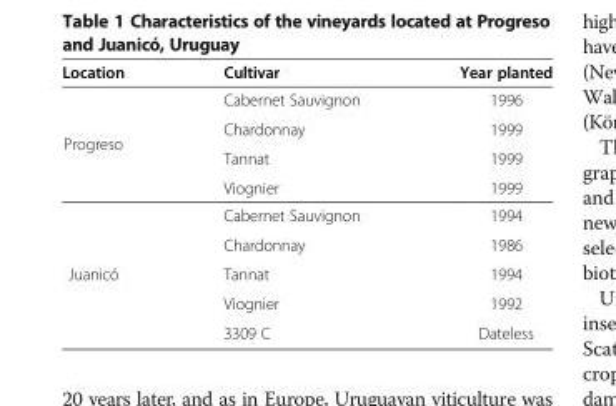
<table><thead><tr><td>Location</td><td>Cultivar</td><td>Year planted</td></tr></thead><tbody><tr><td rowspan="4">Progreso</td><td>Cabernet Sauvignon</td><td>1996</td></tr><tr><td>Chardonnay</td><td>1999</td></tr><tr><td>Tannat</td><td>1999</td></tr><tr><td>Viognier</td><td>1999</td></tr><tr><td rowspan="5">Juanicó</td><td>Cabernet Sauvignon</td><td>1994</td></tr><tr><td>Chardonnay</td><td>1986</td></tr><tr><td>Tannat</td><td>1994</td></tr><tr><td>Viognier</td><td>1992</td></tr><tr><td>3309 C</td><td>Dateless</td></tr></tbody></table>